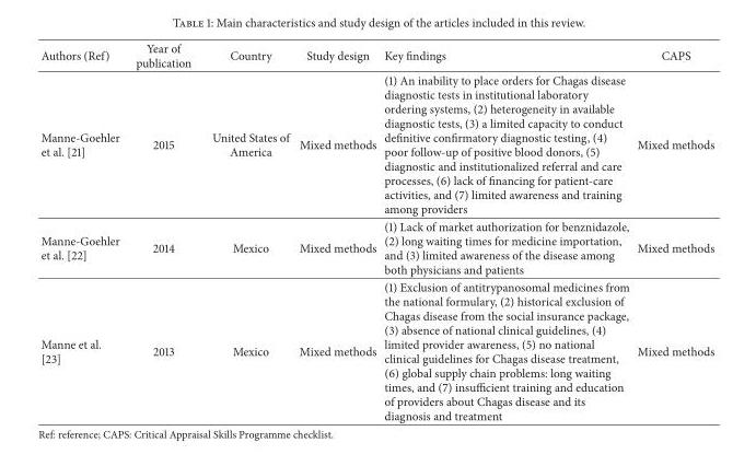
<table><thead><tr><td>Authors (Ref)</td><td>Year of publication</td><td>Country</td><td>Study design</td><td>Key findings</td><td>CAPS</td></tr></thead><tbody><tr><td>Manne-Goehler et al. [21]</td><td>2015</td><td>United States of America</td><td>Mixed methods</td><td>(1) An inability to place orders for Chagas disease diagnostic tests in institutional laboratory ordering systems, (2) heterogeneity in available diagnostic tests, (3) a limited capacity to conduct definitive confirmatory diagnostic testing, (4) poor follow-up of positive blood donors, (5) diagnostic and institutionalized referral and care processes, (6) lack of financing for patient-care activities, and (7) limited awareness and training among providers</td><td>Mixed methods</td></tr><tr><td>Manne-Goehler et al. [22]</td><td>2014</td><td>Mexico</td><td>Mixed methods</td><td>(1) Lack of market authorization for benznidazole, (2) long waiting times for medicine importation, and (3) limited awareness of the disease among both physicians and patients</td><td>Mixed methods</td></tr><tr><td>Manne et al. [23]</td><td>2013</td><td>Mexico</td><td>Mixed methods</td><td>(1) Exclusion of antitrypanosomal medicines from the national formulary, (2) historical exclusion of Chagas disease from the social insurance package, (3) absence of national clinical guidelines, (4) limited provider awareness, (5) no national clinical guidelines for Chagas disease treatment, (6) global supply chain problems: long waiting times, and (7) insufficient training and education of providers about Chagas disease and its diagnosis and treatment</td><td>Mixed methods</td></tr></tbody></table>